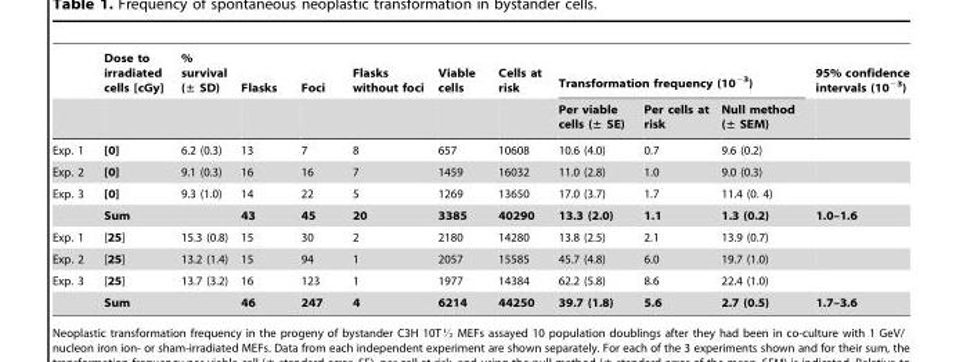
<table><thead><tr><td rowspan="2"></td><td rowspan="2">Dose to irradiated cells [cGy]</td><td rowspan="2">% survival (± SD)</td><td rowspan="2">Flasks</td><td rowspan="2">Foci</td><td rowspan="2">Flasks without foci</td><td rowspan="2">Viable cells</td><td rowspan="2">Cells at risk</td><td colspan="3">Transformation frequency (10<sup>−3</sup>)</td><td rowspan="2">95% confidence intervals (10<sup>−3</sup>)</td></tr><tr><td>Per viable cells (± SE)</td><td>Per cells at risk</td><td>Null method (± SEM)</td></tr></thead><tbody><tr><td>Exp. 1</td><td>[0]</td><td>6.2 (0.3)</td><td>13</td><td>7</td><td>8</td><td>657</td><td>10608</td><td>10.6 (4.0)</td><td>0.7</td><td>9.6 (0.2)</td><td></td></tr><tr><td>Exp. 2</td><td>[0]</td><td>9.1 (0.3)</td><td>16</td><td>16</td><td>7</td><td>1459</td><td>16032</td><td>11.0 (2.8)</td><td>1.0</td><td>9.0 (0.3)</td><td></td></tr><tr><td rowspan="2">Exp. 3</td><td>[0]</td><td>9.3 (1.0)</td><td>14</td><td>22</td><td>5</td><td>1269</td><td>13650</td><td>17.0 (3.7)</td><td>1.7</td><td>11.4 (0. 4)</td><td></td></tr><tr><td>Sum</td><td></td><td>43</td><td>45</td><td>20</td><td>3385</td><td>40290</td><td>13.3 (2.0)</td><td>1.1</td><td>1.3 (0.2)</td><td>1.0–1.6</td></tr><tr><td>Exp. 1</td><td>[25]</td><td>15.3 (0.8)</td><td>15</td><td>30</td><td>2</td><td>2180</td><td>14280</td><td>13.8 (2.5)</td><td>2.1</td><td>13.9 (0.7)</td><td></td></tr><tr><td>Exp. 2</td><td>[25]</td><td>13.2 (1.4)</td><td>15</td><td>94</td><td>1</td><td>2057</td><td>15585</td><td>45.7 (4.8)</td><td>6.0</td><td>19.7 (1.0)</td><td></td></tr><tr><td rowspan="2">Exp. 3</td><td>[25]</td><td>13.7 (3.2)</td><td>16</td><td>123</td><td>1</td><td>1977</td><td>14384</td><td>62.2 (5.8)</td><td>8.6</td><td>22.4 (1.0)</td><td></td></tr><tr><td>Sum</td><td></td><td>46</td><td>247</td><td>4</td><td>6214</td><td>44250</td><td>39.7 (1.8)</td><td>5.6</td><td>2.7 (0.5)</td><td>1.7–3.6</td></tr></tbody></table>